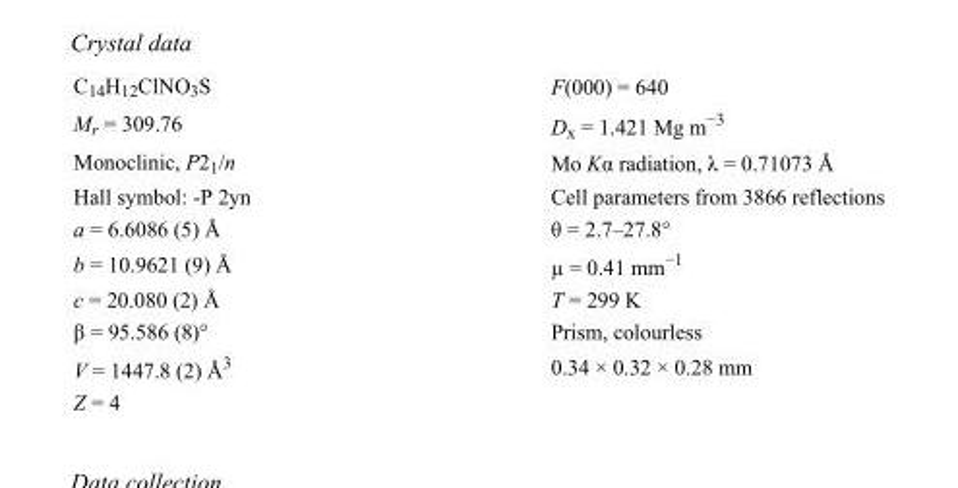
<table><tbody><tr><td>C<sub>14</sub>H<sub>12</sub>ClNO<sub>3</sub>S</td><td>F(000) = 640</td></tr><tr><td>M<sub>r</sub> = 309.76</td><td>D<sub>x</sub> = 1.421 Mg m<sup>−3</sup></td></tr><tr><td>Monoclinic, P2<sub>1</sub>/n</td><td>Mo Kα radiation, λ = 0.71073 Å</td></tr><tr><td>Hall symbol: -P 2yn</td><td>Cell parameters from 3866 reflections</td></tr><tr><td>a = 6.6086 (5) Å</td><td>θ = 2.7–27.8°</td></tr><tr><td>b = 10.9621 (9) Å</td><td>µ = 0.41 mm<sup>−1</sup></td></tr><tr><td>c = 20.080 (2) Å</td><td>T = 299 K</td></tr><tr><td>β = 95.586 (8)°</td><td>Prism, colourless</td></tr><tr><td>V = 1447.8 (2) Å<sup>3</sup></td><td>0.34 × 0.32 × 0.28 mm</td></tr><tr><td>Z = 4</td><td></td></tr></tbody></table>